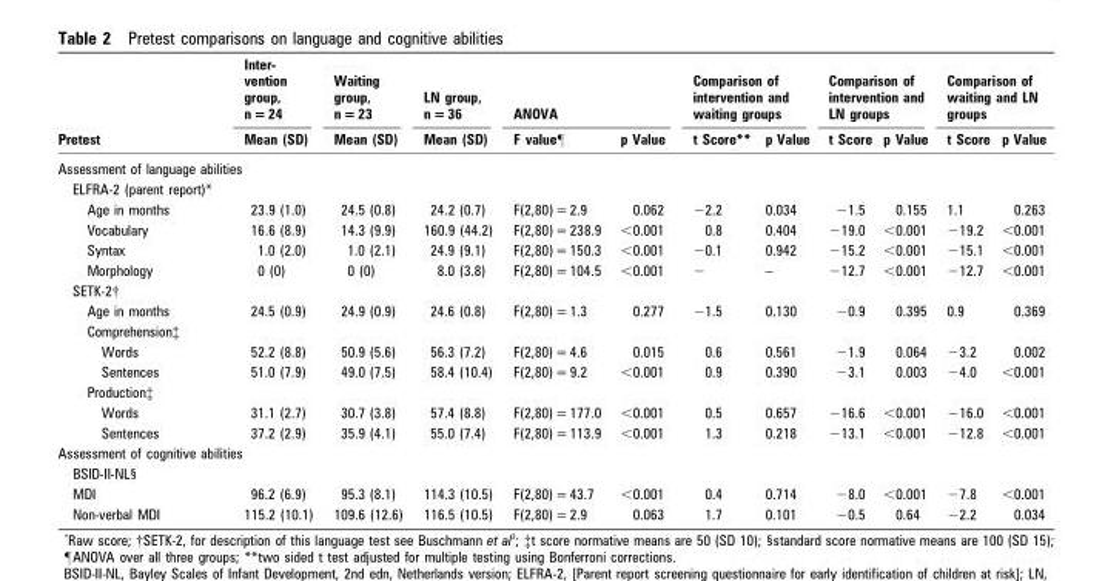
<table><thead><tr><td rowspan="2">Pretest</td><td rowspan="2">Inter- vention group, n = 24 Mean (SD)</td><td rowspan="2">Waiting group, n = 23 Mean (SD)</td><td rowspan="2">LN group, n = 36 Mean (SD)</td><td colspan="2">ANOVA</td><td colspan="2">Comparison of intervention and waiting groups</td><td colspan="2">Comparison of intervention and LN groups</td><td colspan="2">Comparison of waiting and LN groups</td></tr><tr><td>F value¶</td><td>p Value</td><td>t Score**</td><td>p Value</td><td>t Score</td><td>p Value</td><td>t Score</td><td>p Value</td></tr></thead><tbody><tr><td colspan="12">Assessment of language abilities</td></tr><tr><td colspan="12">ELFRA-2 (parent report)*</td></tr><tr><td>Age in months</td><td>23.9 (1.0)</td><td>24.5 (0.8)</td><td>24.2 (0.7)</td><td>F(2,80) = 2.9</td><td>0.062</td><td>−2.2</td><td>0.034</td><td>−1.5</td><td>0.155</td><td>1.1</td><td>0.263</td></tr><tr><td>Vocabulary</td><td>16.6 (8.9)</td><td>14.3 (9.9)</td><td>160.9 (44.2)</td><td>F(2,80) = 238.9</td><td>&lt;0.001</td><td>0.8</td><td>0.404</td><td>−19.0</td><td>&lt;0.001</td><td>−19.2</td><td>&lt;0.001</td></tr><tr><td>Syntax</td><td>1.0 (2.0)</td><td>1.0 (2.1)</td><td>24.9 (9.1)</td><td>F(2,80) = 150.3</td><td>&lt;0.001</td><td>−0.1</td><td>0.942</td><td>−15.2</td><td>&lt;0.001</td><td>−15.1</td><td>&lt;0.001</td></tr><tr><td>Morphology</td><td>0 (0)</td><td>0 (0)</td><td>8.0 (3.8)</td><td>F(2,80) = 104.5</td><td>&lt;0.001</td><td>−</td><td>–</td><td>−12.7</td><td>&lt;0.001</td><td>−12.7</td><td>&lt;0.001</td></tr><tr><td colspan="12">SETK-2†</td></tr><tr><td>Age in months</td><td>24.5 (0.9)</td><td>24.9 (0.9)</td><td>24.6 (0.8)</td><td>F(2,80) = 1.3</td><td>0.277</td><td>−1.5</td><td>0.130</td><td>−0.9</td><td>0.395</td><td>0.9</td><td>0.369</td></tr><tr><td colspan="12">Comprehension‡</td></tr><tr><td>Words</td><td>52.2 (8.8)</td><td>50.9 (5.6)</td><td>56.3 (7.2)</td><td>F(2,80) = 4.6</td><td>0.015</td><td>0.6</td><td>0.561</td><td>−1.9</td><td>0.064</td><td>−3.2</td><td>0.002</td></tr><tr><td>Sentences</td><td>51.0 (7.9)</td><td>49.0 (7.5)</td><td>58.4 (10.4)</td><td>F(2,80) = 9.2</td><td>&lt;0.001</td><td>0.9</td><td>0.390</td><td>−3.1</td><td>0.003</td><td>−4.0</td><td>&lt;0.001</td></tr><tr><td colspan="12">Production‡</td></tr><tr><td>Words</td><td>31.1 (2.7)</td><td>30.7 (3.8)</td><td>57.4 (8.8)</td><td>F(2,80) = 177.0</td><td>&lt;0.001</td><td>0.5</td><td>0.657</td><td>−16.6</td><td>&lt;0.001</td><td>−16.0</td><td>&lt;0.001</td></tr><tr><td>Sentences</td><td>37.2 (2.9)</td><td>35.9 (4.1)</td><td>55.0 (7.4)</td><td>F(2,80) = 113.9</td><td>&lt;0.001</td><td>1.3</td><td>0.218</td><td>−13.1</td><td>&lt;0.001</td><td>−12.8</td><td>&lt;0.001</td></tr><tr><td colspan="12">Assessment of cognitive abilities</td></tr><tr><td colspan="12">BSID-II-NL§</td></tr><tr><td>MDI</td><td>96.2 (6.9)</td><td>95.3 (8.1)</td><td>114.3 (10.5)</td><td>F(2,80) = 43.7</td><td>&lt;0.001</td><td>0.4</td><td>0.714</td><td>−8.0</td><td>&lt;0.001</td><td>−7.8</td><td>&lt;0.001</td></tr><tr><td>Non-verbal MDI</td><td>115.2 (10.1)</td><td>109.6 (12.6)</td><td>116.5 (10.5)</td><td>F(2,80) = 2.9</td><td>0.063</td><td>1.7</td><td>0.101</td><td>−0.5</td><td>0.64</td><td>−2.2</td><td>0.034</td></tr></tbody></table>